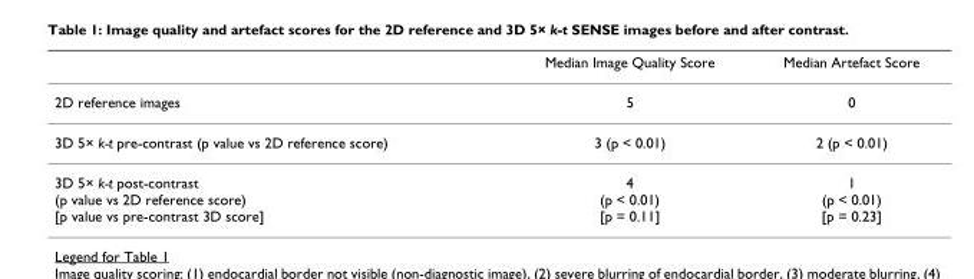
<table><thead><tr><td></td><td>Median Image Quality Score</td><td>Median Artefact Score</td></tr></thead><tbody><tr><td>2D reference images</td><td>5</td><td>0</td></tr><tr><td>3D 5× k-t pre-contrast (p value vs 2D reference score)</td><td>3 (p &lt; 0.01)</td><td>2 (p &lt; 0.01)</td></tr><tr><td>3D 5× k-t post-contrast (p value vs 2D reference score) [p value vs pre-contrast 3D score]</td><td>4 (p &lt; 0.01) [p = 0.11]</td><td>1 (p &lt; 0.01) [p = 0.23]</td></tr></tbody></table>